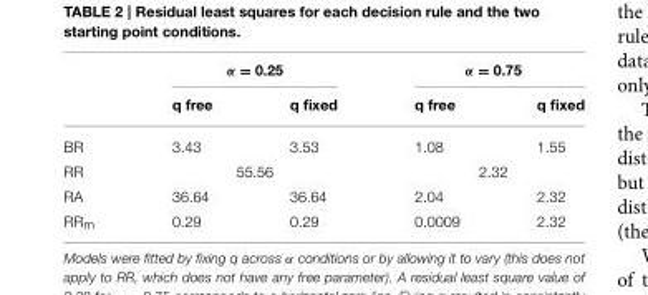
<table><thead><tr><td rowspan="2"></td><td colspan="2">α = 0.25</td><td colspan="2">α = 0.75</td></tr><tr><td>q free</td><td>q fixed</td><td>q free</td><td>q fixed</td></tr></thead><tbody><tr><td>BR</td><td>3.43</td><td>3.53</td><td>1.08</td><td>1.55</td></tr><tr><td>RR</td><td colspan="2">55.56</td><td colspan="2">2.32</td></tr><tr><td>RA</td><td>36.64</td><td>36.64</td><td>2.04</td><td>2.32</td></tr><tr><td>RR<sub>m</sub></td><td>0.29</td><td>0.29</td><td>0.0009</td><td>2.32</td></tr></tbody></table>